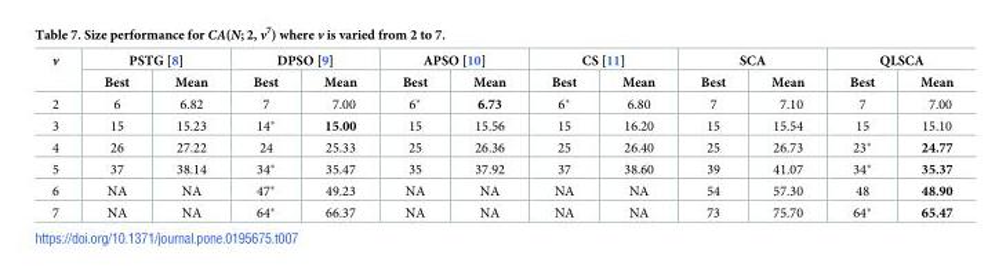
<table><thead><tr><td rowspan="2">v</td><td colspan="2">PSTG [8]</td><td colspan="2">DPSO [9]</td><td colspan="2">APSO [10]</td><td colspan="2">CS [11]</td><td colspan="2">SCA</td><td colspan="2">QLSCA</td></tr><tr><td>Best</td><td>Mean</td><td>Best</td><td>Mean</td><td>Best</td><td>Mean</td><td>Best</td><td>Mean</td><td>Best</td><td>Mean</td><td>Best</td><td>Mean</td></tr></thead><tbody><tr><td>2</td><td>6</td><td>6.82</td><td>7</td><td>7.00</td><td>6*</td><td>6.73</td><td>6*</td><td>6.80</td><td>7</td><td>7.10</td><td>7</td><td>7.00</td></tr><tr><td>3</td><td>15</td><td>15.23</td><td>14*</td><td>15.00</td><td>15</td><td>15.56</td><td>15</td><td>16.20</td><td>15</td><td>15.54</td><td>15</td><td>15.10</td></tr><tr><td>4</td><td>26</td><td>27.22</td><td>24</td><td>25.33</td><td>25</td><td>26.36</td><td>25</td><td>26.40</td><td>25</td><td>26.73</td><td>23*</td><td>24.77</td></tr><tr><td>5</td><td>37</td><td>38.14</td><td>34*</td><td>35.47</td><td>35</td><td>37.92</td><td>37</td><td>38.60</td><td>39</td><td>41.07</td><td>34*</td><td>35.37</td></tr><tr><td>6</td><td>NA</td><td>NA</td><td>47*</td><td>49.23</td><td>NA</td><td>NA</td><td>NA</td><td>NA</td><td>54</td><td>57.30</td><td>48</td><td>48.90</td></tr><tr><td>7</td><td>NA</td><td>NA</td><td>64*</td><td>66.37</td><td>NA</td><td>NA</td><td>NA</td><td>NA</td><td>73</td><td>75.70</td><td>64*</td><td>65.47</td></tr></tbody></table>